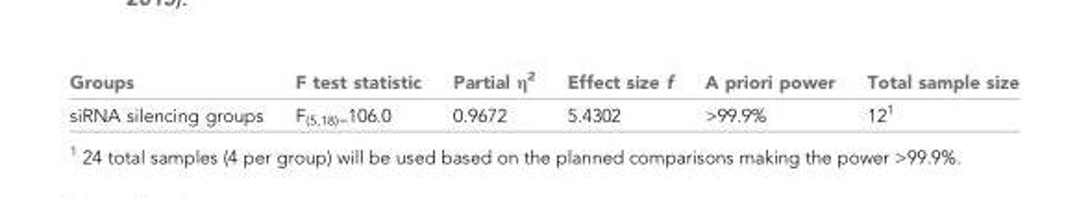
<table><thead><tr><td>Groups</td><td>F test statistic</td><td>Partial η<sup>2</sup></td><td>Effect size f</td><td>A priori power</td><td>Total sample size</td></tr></thead><tbody><tr><td>siRNA silencing groups</td><td>F<sub>(5,18)=</sub>106.0</td><td>0.9672</td><td>5.4302</td><td>&gt;99.9%</td><td>12<sup>1</sup></td></tr></tbody></table>